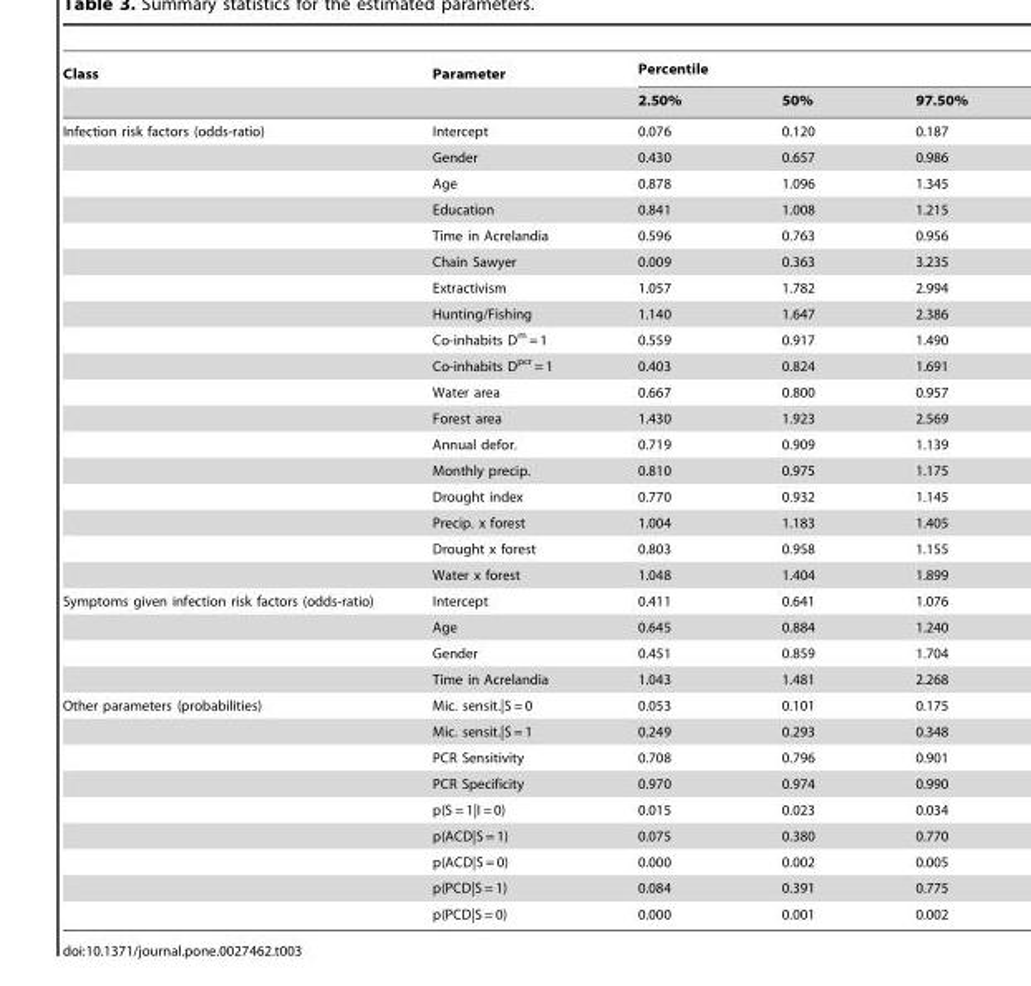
<table><thead><tr><td rowspan="2">Class</td><td rowspan="2">Parameter</td><td colspan="3">Percentile</td></tr><tr><td>2.50%</td><td>50%</td><td>97.50%</td></tr></thead><tbody><tr><td rowspan="18">Infection risk factors (odds-ratio)</td><td>Intercept</td><td>0.076</td><td>0.120</td><td>0.187</td></tr><tr><td>Gender</td><td>0.430</td><td>0.657</td><td>0.986</td></tr><tr><td>Age</td><td>0.878</td><td>1.096</td><td>1.345</td></tr><tr><td>Education</td><td>0.841</td><td>1.008</td><td>1.215</td></tr><tr><td>Time in Acrelandia</td><td>0.596</td><td>0.763</td><td>0.956</td></tr><tr><td>Chain Sawyer</td><td>0.009</td><td>0.363</td><td>3.235</td></tr><tr><td>Extractivism</td><td>1.057</td><td>1.782</td><td>2.994</td></tr><tr><td>Hunting/Fishing</td><td>1.140</td><td>1.647</td><td>2.386</td></tr><tr><td>Co-inhabits D<sup>m</sup> = 1</td><td>0.559</td><td>0.917</td><td>1.490</td></tr><tr><td>Co-inhabits D<sup>pcr</sup> = 1</td><td>0.403</td><td>0.824</td><td>1.691</td></tr><tr><td>Water area</td><td>0.667</td><td>0.800</td><td>0.957</td></tr><tr><td>Forest area</td><td>1.430</td><td>1.923</td><td>2.569</td></tr><tr><td>Annual defor.</td><td>0.719</td><td>0.909</td><td>1.139</td></tr><tr><td>Monthly precip.</td><td>0.810</td><td>0.975</td><td>1.175</td></tr><tr><td>Drought index</td><td>0.770</td><td>0.932</td><td>1.145</td></tr><tr><td>Precip. x forest</td><td>1.004</td><td>1.183</td><td>1.405</td></tr><tr><td>Drought x forest</td><td>0.803</td><td>0.958</td><td>1.155</td></tr><tr><td>Water x forest</td><td>1.048</td><td>1.404</td><td>1.899</td></tr><tr><td rowspan="4">Symptoms given infection risk factors (odds-ratio)</td><td>Intercept</td><td>0.411</td><td>0.641</td><td>1.076</td></tr><tr><td>Age</td><td>0.645</td><td>0.884</td><td>1.240</td></tr><tr><td>Gender</td><td>0.451</td><td>0.859</td><td>1.704</td></tr><tr><td>Time in Acrelandia</td><td>1.043</td><td>1.481</td><td>2.268</td></tr><tr><td rowspan="9">Other parameters (probabilities)</td><td>Mic. sensit.|S = 0</td><td>0.053</td><td>0.101</td><td>0.175</td></tr><tr><td>Mic. sensit.|S = 1</td><td>0.249</td><td>0.293</td><td>0.348</td></tr><tr><td>PCR Sensitivity</td><td>0.708</td><td>0.796</td><td>0.901</td></tr><tr><td>PCR Specificity</td><td>0.970</td><td>0.974</td><td>0.990</td></tr><tr><td>p(S = 1|I = 0)</td><td>0.015</td><td>0.023</td><td>0.034</td></tr><tr><td>p(ACD|S = 1)</td><td>0.075</td><td>0.380</td><td>0.770</td></tr><tr><td>p(ACD|S = 0)</td><td>0.000</td><td>0.002</td><td>0.005</td></tr><tr><td>p(PCD|S = 1)</td><td>0.084</td><td>0.391</td><td>0.775</td></tr><tr><td>p(PCD|S = 0)</td><td>0.000</td><td>0.001</td><td>0.002</td></tr></tbody></table>